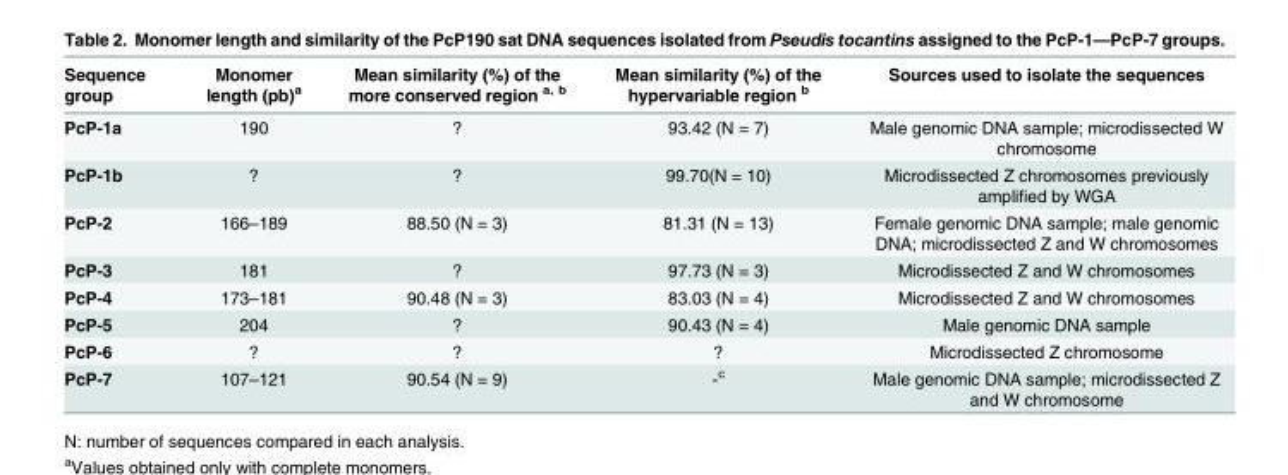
<table><thead><tr><td>Sequence group</td><td>Monomer length (pb)<sup>a</sup></td><td>Mean similarity (%) of the more conserved region <sup>a, b</sup></td><td>Mean similarity (%) of the hypervariable region <sup>b</sup></td><td>Sources used to isolate the sequences</td></tr></thead><tbody><tr><td>PcP-1a</td><td>190</td><td>?</td><td>93.42 (N = 7)</td><td>Male genomic DNA sample; microdissected W chromosome</td></tr><tr><td>PcP-1b</td><td>?</td><td>?</td><td>99.70(N = 10)</td><td>Microdissected Z chromosomes previously amplified by WGA</td></tr><tr><td>PcP-2</td><td>166–189</td><td>88.50 (N = 3)</td><td>81.31 (N = 13)</td><td>Female genomic DNA sample; male genomic DNA; microdissected Z and W chromosomes</td></tr><tr><td>PcP-3</td><td>181</td><td>?</td><td>97.73 (N = 3)</td><td>Microdissected Z and W chromosomes</td></tr><tr><td>PcP-4</td><td>173–181</td><td>90.48 (N = 3)</td><td>83.03 (N = 4)</td><td>Microdissected Z and W chromosomes</td></tr><tr><td>PcP-5</td><td>204</td><td>?</td><td>90.43 (N = 4)</td><td>Male genomic DNA sample</td></tr><tr><td>PcP-6</td><td>?</td><td>?</td><td>?</td><td>Microdissected Z chromosome</td></tr><tr><td>PcP-7</td><td>107–121</td><td>90.54 (N = 9)</td><td>-<sup>c</sup></td><td>Male genomic DNA sample; microdissected Z and W chromosome</td></tr></tbody></table>